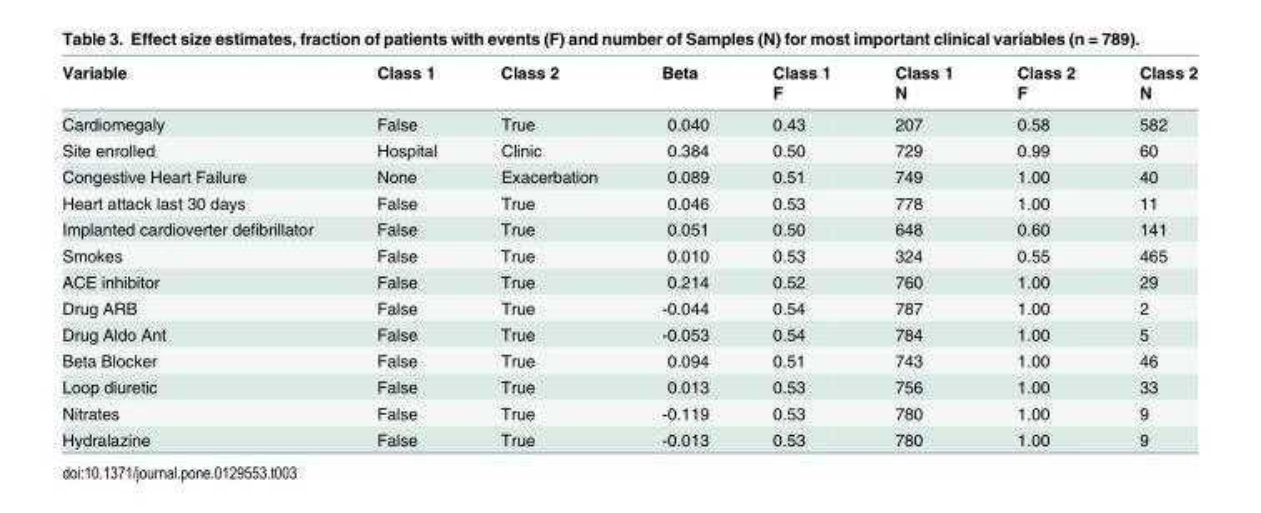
<table><thead><tr><td rowspan="2">Variable</td><td rowspan="2">Class 1</td><td rowspan="2">Class 2</td><td rowspan="2">Beta</td><td rowspan="2">Class 1 F</td><td rowspan="2">Class 1 N</td><td rowspan="2">Class 2 F</td><td rowspan="2">Class 2 N</td></tr><tr></tr></thead><tbody><tr><td>Cardiomegaly</td><td>False</td><td>True</td><td>0.040</td><td>0.43</td><td>207</td><td>0.58</td><td>582</td></tr><tr><td>Site enrolled</td><td>Hospital</td><td>Clinic</td><td>0.384</td><td>0.50</td><td>729</td><td>0.99</td><td>60</td></tr><tr><td>Congestive Heart Failure</td><td>None</td><td>Exacerbation</td><td>0.089</td><td>0.51</td><td>749</td><td>1.00</td><td>40</td></tr><tr><td>Heart attack last 30 days</td><td>False</td><td>True</td><td>0.046</td><td>0.53</td><td>778</td><td>1.00</td><td>11</td></tr><tr><td>Implanted cardioverter defibrillator</td><td>False</td><td>True</td><td>0.051</td><td>0.50</td><td>648</td><td>0.60</td><td>141</td></tr><tr><td>Smokes</td><td>False</td><td>True</td><td>0.010</td><td>0.53</td><td>324</td><td>0.55</td><td>465</td></tr><tr><td>ACE inhibitor</td><td>False</td><td>True</td><td>0.214</td><td>0.52</td><td>760</td><td>1.00</td><td>29</td></tr><tr><td>Drug ARB</td><td>False</td><td>True</td><td>-0.044</td><td>0.54</td><td>787</td><td>1.00</td><td>2</td></tr><tr><td>Drug Aldo Ant</td><td>False</td><td>True</td><td>-0.053</td><td>0.54</td><td>784</td><td>1.00</td><td>5</td></tr><tr><td>Beta Blocker</td><td>False</td><td>True</td><td>0.094</td><td>0.51</td><td>743</td><td>1.00</td><td>46</td></tr><tr><td>Loop diuretic</td><td>False</td><td>True</td><td>0.013</td><td>0.53</td><td>756</td><td>1.00</td><td>33</td></tr><tr><td>Nitrates</td><td>False</td><td>True</td><td>-0.119</td><td>0.53</td><td>780</td><td>1.00</td><td>9</td></tr><tr><td>Hydralazine</td><td>False</td><td>True</td><td>-0.013</td><td>0.53</td><td>780</td><td>1.00</td><td>9</td></tr></tbody></table>